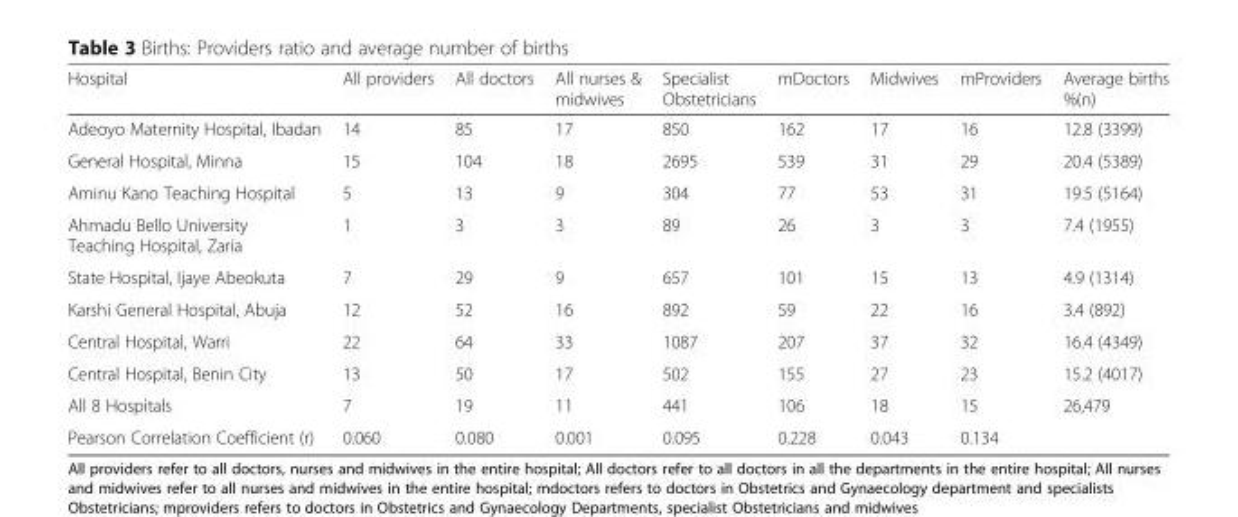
<table><thead><tr><td>Hospital</td><td>All providers</td><td>All doctors</td><td>All nurses &amp; midwives</td><td>Specialist Obstetricians</td><td>mDoctors</td><td>Midwives</td><td>mProviders</td><td>Average births %(n)</td></tr></thead><tbody><tr><td>Adeoyo Maternity Hospital, Ibadan</td><td>14</td><td>85</td><td>17</td><td>850</td><td>162</td><td>17</td><td>16</td><td>12.8 (3399)</td></tr><tr><td>General Hospital, Minna</td><td>15</td><td>104</td><td>18</td><td>2695</td><td>539</td><td>31</td><td>29</td><td>20.4 (5389)</td></tr><tr><td>Aminu Kano Teaching Hospital</td><td>5</td><td>13</td><td>9</td><td>304</td><td>77</td><td>53</td><td>31</td><td>19.5 (5164)</td></tr><tr><td>Ahmadu Bello University Teaching Hospital, Zaria</td><td>1</td><td>3</td><td>3</td><td>89</td><td>26</td><td>3</td><td>3</td><td>7.4 (1955)</td></tr><tr><td>State Hospital, Ijaye Abeokuta</td><td>7</td><td>29</td><td>9</td><td>657</td><td>101</td><td>15</td><td>13</td><td>4.9 (1314)</td></tr><tr><td>Karshi General Hospital, Abuja</td><td>12</td><td>52</td><td>16</td><td>892</td><td>59</td><td>22</td><td>16</td><td>3.4 (892)</td></tr><tr><td>Central Hospital, Warri</td><td>22</td><td>64</td><td>33</td><td>1087</td><td>207</td><td>37</td><td>32</td><td>16.4 (4349)</td></tr><tr><td>Central Hospital, Benin City</td><td>13</td><td>50</td><td>17</td><td>502</td><td>155</td><td>27</td><td>23</td><td>15.2 (4017)</td></tr><tr><td>All 8 Hospitals</td><td>7</td><td>19</td><td>11</td><td>441</td><td>106</td><td>18</td><td>15</td><td>26,479</td></tr><tr><td>Pearson Correlation Coefficient (r)</td><td>0.060</td><td>0.080</td><td>0.001</td><td>0.095</td><td>0.228</td><td>0.043</td><td>0.134</td><td></td></tr></tbody></table>